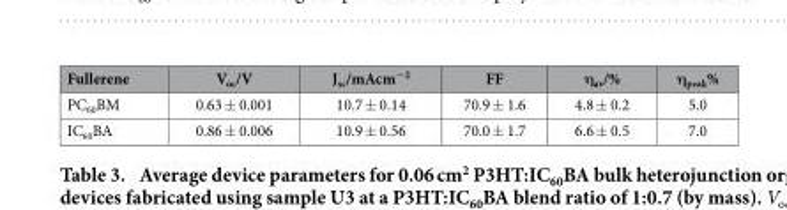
<table><thead><tr><td>Fullerene</td><td>V<sub>oc</sub>/V</td><td>J<sub>sc</sub>/mAcm<sup>−2</sup></td><td>FF</td><td>η<sub>av</sub>/%</td><td>η<sub>peak</sub>%</td></tr></thead><tbody><tr><td>PC<sub>60</sub>BM</td><td>0.63 ± 0.001</td><td>10.7 ± 0.14</td><td>70.9 ± 1.6</td><td>4.8 ± 0.2</td><td>5.0</td></tr><tr><td>IC<sub>60</sub>BA</td><td>0.86 ± 0.006</td><td>10.9 ± 0.56</td><td>70.0 ± 1.7</td><td>6.6 ± 0.5</td><td>7.0</td></tr></tbody></table>